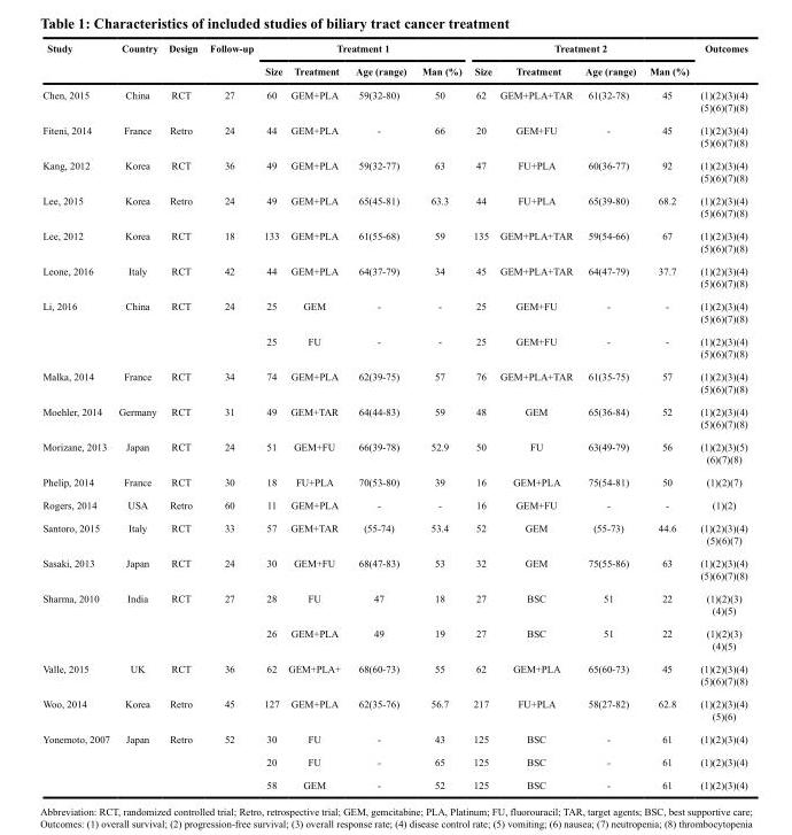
<table><thead><tr><td rowspan="2">Study</td><td rowspan="2">Country</td><td rowspan="2">Design</td><td rowspan="2">Follow-up</td><td colspan="4">Treatment 1</td><td colspan="4">Treatment 2</td><td rowspan="2">Outcomes</td></tr><tr><td>Size</td><td>Treatment</td><td>Age (range)</td><td>Man (%)</td><td>Size</td><td>Treatment</td><td>Age (range)</td><td>Man (%)</td></tr></thead><tbody><tr><td>Chen, 2015</td><td>China</td><td>RCT</td><td>27</td><td>60</td><td>GEM+PLA</td><td>59(32-80)</td><td>50</td><td>62</td><td>GEM+PLA+TAR</td><td>61(32-78)</td><td>45</td><td>(1)(2)(3)(4) (5)(6)(7)(8)</td></tr><tr><td>Fiteni, 2014</td><td>France</td><td>Retro</td><td>24</td><td>44</td><td>GEM+PLA</td><td>-</td><td>66</td><td>20</td><td>GEM+FU</td><td>-</td><td>45</td><td>(1)(2)(3)(4) (5)(6)(7)(8)</td></tr><tr><td>Kang, 2012</td><td>Korea</td><td>RCT</td><td>36</td><td>49</td><td>GEM+PLA</td><td>59(32-77)</td><td>63</td><td>47</td><td>FU+PLA</td><td>60(36-77)</td><td>92</td><td>(1)(2)(3)(4) (5)(6)(7)(8)</td></tr><tr><td>Lee, 2015</td><td>Korea</td><td>Retro</td><td>24</td><td>49</td><td>GEM+PLA</td><td>65(45-81)</td><td>63.3</td><td>44</td><td>FU+PLA</td><td>65(39-80)</td><td>68.2</td><td>(1)(2)(3)(4) (5)(6)(7)(8)</td></tr><tr><td>Lee, 2012</td><td>Korea</td><td>RCT</td><td>18</td><td>133</td><td>GEM+PLA</td><td>61(55-68)</td><td>59</td><td>135</td><td>GEM+PLA+TAR</td><td>59(54-66)</td><td>67</td><td>(1)(2)(3)(4) (5)(6)(7)(8)</td></tr><tr><td>Leone, 2016</td><td>Italy</td><td>RCT</td><td>42</td><td>44</td><td>GEM+PLA</td><td>64(37-79)</td><td>34</td><td>45</td><td>GEM+PLA+TAR</td><td>64(47-79)</td><td>37.7</td><td>(1)(2)(3)(4) (5)(6)(7)(8)</td></tr><tr><td rowspan="2">Li, 2016</td><td>China</td><td>RCT</td><td>24</td><td>25</td><td>GEM</td><td>-</td><td>-</td><td>25</td><td>GEM+FU</td><td>-</td><td>-</td><td>(1)(2)(3)(4) (5)(6)(7)(8)</td></tr><tr><td></td><td></td><td></td><td>25</td><td>FU</td><td>-</td><td>-</td><td>25</td><td>GEM+FU</td><td>-</td><td>-</td><td>(1)(2)(3)(4) (5)(6)(7)(8)</td></tr><tr><td>Malka, 2014</td><td>France</td><td>RCT</td><td>34</td><td>74</td><td>GEM+PLA</td><td>62(39-75)</td><td>57</td><td>76</td><td>GEM+PLA+TAR</td><td>61(35-75)</td><td>57</td><td>(1)(2)(3)(4) (5)(6)(7)(8)</td></tr><tr><td>Moehler, 2014</td><td>Germany</td><td>RCT</td><td>31</td><td>49</td><td>GEM+TAR</td><td>64(44-83)</td><td>59</td><td>48</td><td>GEM</td><td>65(36-84)</td><td>52</td><td>(1)(2)(3)(4) (5)(6)(7)(8)</td></tr><tr><td>Morizane, 2013</td><td>Japan</td><td>RCT</td><td>24</td><td>51</td><td>GEM+FU</td><td>66(39-78)</td><td>52.9</td><td>50</td><td>FU</td><td>63(49-79)</td><td>56</td><td>(1)(2)(3)(5) (6)(7)(8)</td></tr><tr><td>Phelip, 2014</td><td>France</td><td>RCT</td><td>30</td><td>18</td><td>FU+PLA</td><td>70(53-80)</td><td>39</td><td>16</td><td>GEM+PLA</td><td>75(54-81)</td><td>50</td><td>(1)(2)(7)</td></tr><tr><td>Rogers, 2014</td><td>USA</td><td>Retro</td><td>60</td><td>11</td><td>GEM+PLA</td><td>-</td><td>-</td><td>16</td><td>GEM+FU</td><td>-</td><td>-</td><td>(1)(2)</td></tr><tr><td>Santoro, 2015</td><td>Italy</td><td>RCT</td><td>33</td><td>57</td><td>GEM+TAR</td><td>(55-74)</td><td>53.4</td><td>52</td><td>GEM</td><td>(55-73)</td><td>44.6</td><td>(1)(2)(3)(4) (5)(6)(7)</td></tr><tr><td>Sasaki, 2013</td><td>Japan</td><td>RCT</td><td>24</td><td>30</td><td>GEM+FU</td><td>68(47-83)</td><td>53</td><td>32</td><td>GEM</td><td>75(55-86)</td><td>63</td><td>(1)(2)(3)(4) (5)(6)(7)(8)</td></tr><tr><td rowspan="2">Sharma, 2010</td><td>India</td><td>RCT</td><td>27</td><td>28</td><td>FU</td><td>47</td><td>18</td><td>27</td><td>BSC</td><td>51</td><td>22</td><td>(1)(2)(3) (4)(5)</td></tr><tr><td></td><td></td><td></td><td>26</td><td>GEM+PLA</td><td>49</td><td>19</td><td>27</td><td>BSC</td><td>51</td><td>22</td><td>(1)(2)(3) (4)(5)</td></tr><tr><td>Valle, 2015</td><td>UK</td><td>RCT</td><td>36</td><td>62</td><td>GEM+PLA+</td><td>68(60-73)</td><td>55</td><td>62</td><td>GEM+PLA</td><td>65(60-73)</td><td>45</td><td>(1)(2)(3)(4) (5)(6)(7)(8)</td></tr><tr><td>Woo, 2014</td><td>Korea</td><td>Retro</td><td>45</td><td>127</td><td>GEM+PLA</td><td>62(35-76)</td><td>56.7</td><td>217</td><td>FU+PLA</td><td>58(27-82)</td><td>62.8</td><td>(1)(2)(3)(4) (5)(6)</td></tr><tr><td rowspan="3">Yonemoto, 2007</td><td>Japan</td><td>Retro</td><td>52</td><td>30</td><td>FU</td><td>-</td><td>43</td><td>125</td><td>BSC</td><td>-</td><td>61</td><td>(1)(2)(3)(4)</td></tr><tr><td></td><td></td><td></td><td>20</td><td>FU</td><td>-</td><td>65</td><td>125</td><td>BSC</td><td>-</td><td>61</td><td>(1)(2)(3)(4)</td></tr><tr><td></td><td></td><td></td><td>58</td><td>GEM</td><td>-</td><td>52</td><td>125</td><td>BSC</td><td>-</td><td>61</td><td>(1)(2)(3)(4)</td></tr></tbody></table>